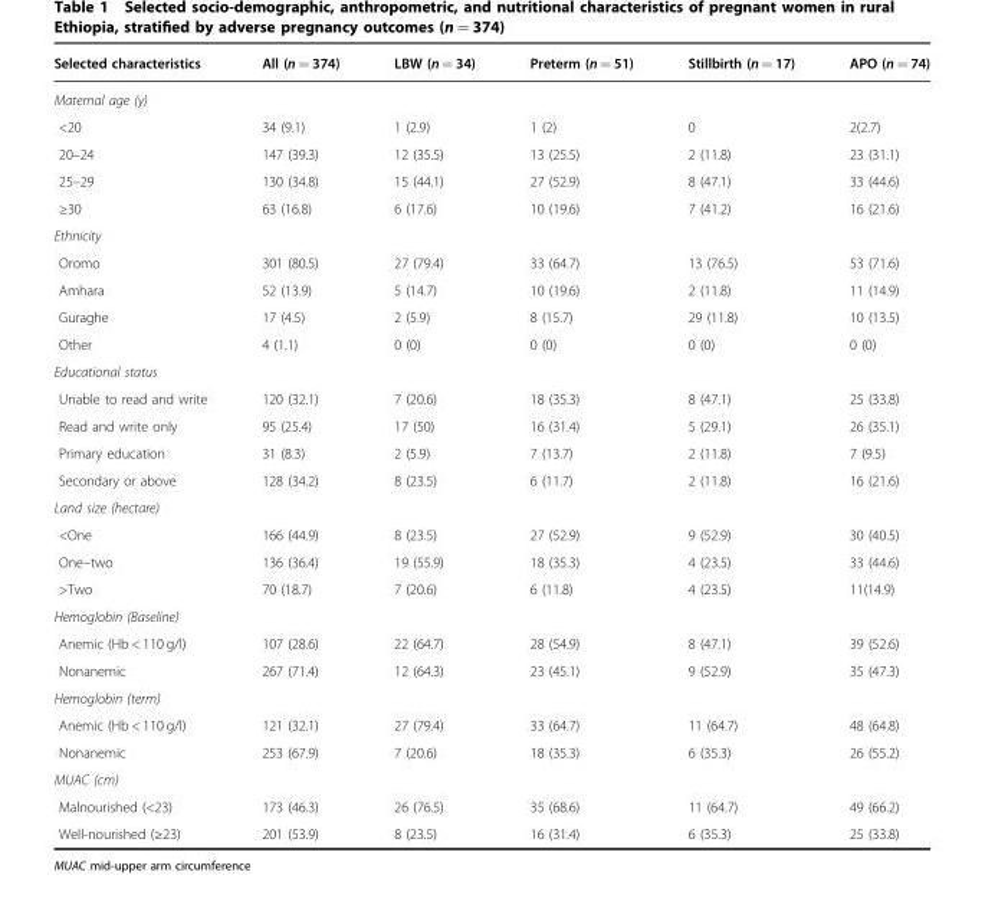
<table><thead><tr><td>Selected characteristics</td><td>All (n = 374)</td><td>LBW (n = 34)</td><td>Preterm (n = 51)</td><td>Stillbirth (n = 17)</td><td>APO (n = 74)</td></tr></thead><tbody><tr><td colspan="6">Maternal age (y)</td></tr><tr><td>&lt;20</td><td>34 (9.1)</td><td>1 (2.9)</td><td>1 (2)</td><td>0</td><td>2(2.7)</td></tr><tr><td>20–24</td><td>147 (39.3)</td><td>12 (35.5)</td><td>13 (25.5)</td><td>2 (11.8)</td><td>23 (31.1)</td></tr><tr><td>25–29</td><td>130 (34.8)</td><td>15 (44.1)</td><td>27 (52.9)</td><td>8 (47.1)</td><td>33 (44.6)</td></tr><tr><td>≥30</td><td>63 (16.8)</td><td>6 (17.6)</td><td>10 (19.6)</td><td>7 (41.2)</td><td>16 (21.6)</td></tr><tr><td colspan="6">Ethnicity</td></tr><tr><td>Oromo</td><td>301 (80.5)</td><td>27 (79.4)</td><td>33 (64.7)</td><td>13 (76.5)</td><td>53 (71.6)</td></tr><tr><td>Amhara</td><td>52 (13.9)</td><td>5 (14.7)</td><td>10 (19.6)</td><td>2 (11.8)</td><td>11 (14.9)</td></tr><tr><td>Guraghe</td><td>17 (4.5)</td><td>2 (5.9)</td><td>8 (15.7)</td><td>29 (11.8)</td><td>10 (13.5)</td></tr><tr><td>Other</td><td>4 (1.1)</td><td>0 (0)</td><td>0 (0)</td><td>0 (0)</td><td>0 (0)</td></tr><tr><td colspan="6">Educational status</td></tr><tr><td>Unable to read and write</td><td>120 (32.1)</td><td>7 (20.6)</td><td>18 (35.3)</td><td>8 (47.1)</td><td>25 (33.8)</td></tr><tr><td>Read and write only</td><td>95 (25.4)</td><td>17 (50)</td><td>16 (31.4)</td><td>5 (29.1)</td><td>26 (35.1)</td></tr><tr><td>Primary education</td><td>31 (8.3)</td><td>2 (5.9)</td><td>7 (13.7)</td><td>2 (11.8)</td><td>7 (9.5)</td></tr><tr><td>Secondary or above</td><td>128 (34.2)</td><td>8 (23.5)</td><td>6 (11.7)</td><td>2 (11.8)</td><td>16 (21.6)</td></tr><tr><td colspan="6">Land size (hectare)</td></tr><tr><td>&lt;One</td><td>166 (44.9)</td><td>8 (23.5)</td><td>27 (52.9)</td><td>9 (52.9)</td><td>30 (40.5)</td></tr><tr><td>One–two</td><td>136 (36.4)</td><td>19 (55.9)</td><td>18 (35.3)</td><td>4 (23.5)</td><td>33 (44.6)</td></tr><tr><td>&gt;Two</td><td>70 (18.7)</td><td>7 (20.6)</td><td>6 (11.8)</td><td>4 (23.5)</td><td>11(14.9)</td></tr><tr><td colspan="6">Hemoglobin (Baseline)</td></tr><tr><td>Anemic (Hb &lt; 110 g/l)</td><td>107 (28.6)</td><td>22 (64.7)</td><td>28 (54.9)</td><td>8 (47.1)</td><td>39 (52.6)</td></tr><tr><td>Nonanemic</td><td>267 (71.4)</td><td>12 (64.3)</td><td>23 (45.1)</td><td>9 (52.9)</td><td>35 (47.3)</td></tr><tr><td colspan="6">Hemoglobin (term)</td></tr><tr><td>Anemic (Hb &lt; 110 g/l)</td><td>121 (32.1)</td><td>27 (79.4)</td><td>33 (64.7)</td><td>11 (64.7)</td><td>48 (64.8)</td></tr><tr><td>Nonanemic</td><td>253 (67.9)</td><td>7 (20.6)</td><td>18 (35.3)</td><td>6 (35.3)</td><td>26 (55.2)</td></tr><tr><td colspan="6">MUAC (cm)</td></tr><tr><td>Malnourished (&lt;23)</td><td>173 (46.3)</td><td>26 (76.5)</td><td>35 (68.6)</td><td>11 (64.7)</td><td>49 (66.2)</td></tr><tr><td>Well-nourished (≥23)</td><td>201 (53.9)</td><td>8 (23.5)</td><td>16 (31.4)</td><td>6 (35.3)</td><td>25 (33.8)</td></tr></tbody></table>